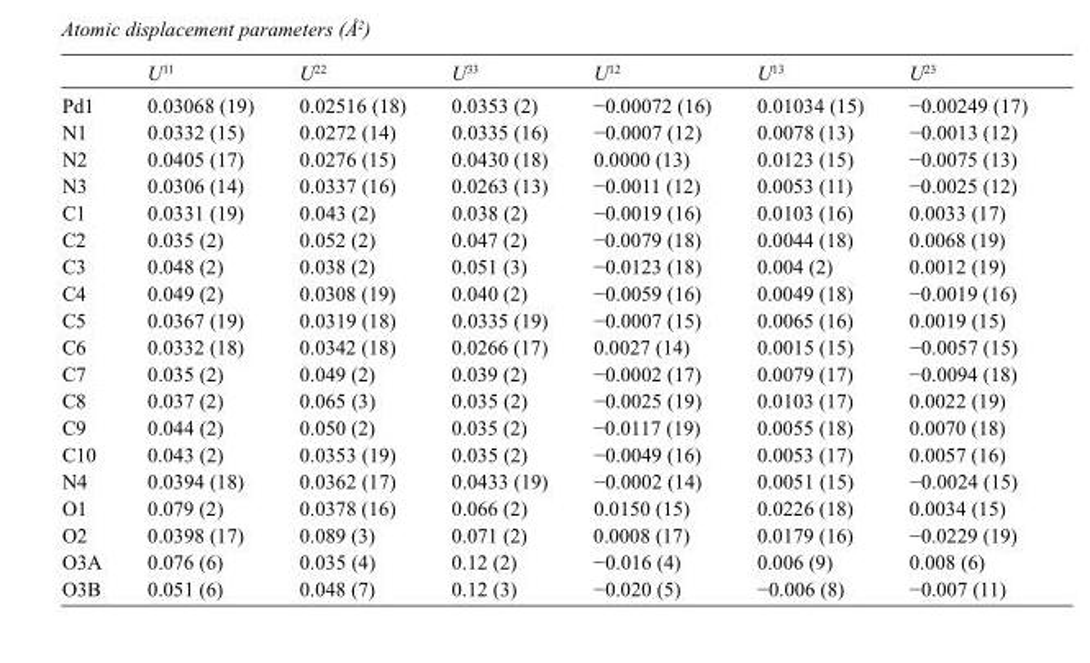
<table><thead><tr><td></td><td>U<sup>11</sup></td><td>U<sup>22</sup></td><td>U<sup>33</sup></td><td>U<sup>12</sup></td><td>U<sup>13</sup></td><td>U<sup>23</sup></td></tr></thead><tbody><tr><td>Pd1</td><td>0.03068 (19)</td><td>0.02516 (18)</td><td>0.0353 (2)</td><td>−0.00072 (16)</td><td>0.01034 (15)</td><td>−0.00249 (17)</td></tr><tr><td>N1</td><td>0.0332 (15)</td><td>0.0272 (14)</td><td>0.0335 (16)</td><td>−0.0007 (12)</td><td>0.0078 (13)</td><td>−0.0013 (12)</td></tr><tr><td>N2</td><td>0.0405 (17)</td><td>0.0276 (15)</td><td>0.0430 (18)</td><td>0.0000 (13)</td><td>0.0123 (15)</td><td>−0.0075 (13)</td></tr><tr><td>N3</td><td>0.0306 (14)</td><td>0.0337 (16)</td><td>0.0263 (13)</td><td>−0.0011 (12)</td><td>0.0053 (11)</td><td>−0.0025 (12)</td></tr><tr><td>C1</td><td>0.0331 (19)</td><td>0.043 (2)</td><td>0.038 (2)</td><td>−0.0019 (16)</td><td>0.0103 (16)</td><td>0.0033 (17)</td></tr><tr><td>C2</td><td>0.035 (2)</td><td>0.052 (2)</td><td>0.047 (2)</td><td>−0.0079 (18)</td><td>0.0044 (18)</td><td>0.0068 (19)</td></tr><tr><td>C3</td><td>0.048 (2)</td><td>0.038 (2)</td><td>0.051 (3)</td><td>−0.0123 (18)</td><td>0.004 (2)</td><td>0.0012 (19)</td></tr><tr><td>C4</td><td>0.049 (2)</td><td>0.0308 (19)</td><td>0.040 (2)</td><td>−0.0059 (16)</td><td>0.0049 (18)</td><td>−0.0019 (16)</td></tr><tr><td>C5</td><td>0.0367 (19)</td><td>0.0319 (18)</td><td>0.0335 (19)</td><td>−0.0007 (15)</td><td>0.0065 (16)</td><td>0.0019 (15)</td></tr><tr><td>C6</td><td>0.0332 (18)</td><td>0.0342 (18)</td><td>0.0266 (17)</td><td>0.0027 (14)</td><td>0.0015 (15)</td><td>−0.0057 (15)</td></tr><tr><td>C7</td><td>0.035 (2)</td><td>0.049 (2)</td><td>0.039 (2)</td><td>−0.0002 (17)</td><td>0.0079 (17)</td><td>−0.0094 (18)</td></tr><tr><td>C8</td><td>0.037 (2)</td><td>0.065 (3)</td><td>0.035 (2)</td><td>−0.0025 (19)</td><td>0.0103 (17)</td><td>0.0022 (19)</td></tr><tr><td>C9</td><td>0.044 (2)</td><td>0.050 (2)</td><td>0.035 (2)</td><td>−0.0117 (19)</td><td>0.0055 (18)</td><td>0.0070 (18)</td></tr><tr><td>C10</td><td>0.043 (2)</td><td>0.0353 (19)</td><td>0.035 (2)</td><td>−0.0049 (16)</td><td>0.0053 (17)</td><td>0.0057 (16)</td></tr><tr><td>N4</td><td>0.0394 (18)</td><td>0.0362 (17)</td><td>0.0433 (19)</td><td>−0.0002 (14)</td><td>0.0051 (15)</td><td>−0.0024 (15)</td></tr><tr><td>O1</td><td>0.079 (2)</td><td>0.0378 (16)</td><td>0.066 (2)</td><td>0.0150 (15)</td><td>0.0226 (18)</td><td>0.0034 (15)</td></tr><tr><td>O2</td><td>0.0398 (17)</td><td>0.089 (3)</td><td>0.071 (2)</td><td>0.0008 (17)</td><td>0.0179 (16)</td><td>−0.0229 (19)</td></tr><tr><td>O3A</td><td>0.076 (6)</td><td>0.035 (4)</td><td>0.12 (2)</td><td>−0.016 (4)</td><td>0.006 (9)</td><td>0.008 (6)</td></tr><tr><td>O3B</td><td>0.051 (6)</td><td>0.048 (7)</td><td>0.12 (3)</td><td>−0.020 (5)</td><td>−0.006 (8)</td><td>−0.007 (11)</td></tr></tbody></table>